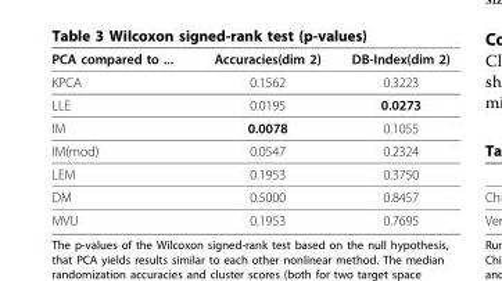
<table><thead><tr><td>PCA compared to ...</td><td>Accuracies(dim 2)</td><td>DB-Index(dim 2)</td></tr></thead><tbody><tr><td>KPCA</td><td>0.1562</td><td>0.3223</td></tr><tr><td>LLE</td><td>0.0195</td><td>0.0273</td></tr><tr><td>IM</td><td>0.0078</td><td>0.1055</td></tr><tr><td>IM(mod)</td><td>0.0547</td><td>0.2324</td></tr><tr><td>LEM</td><td>0.1953</td><td>0.3750</td></tr><tr><td>DM</td><td>0.5000</td><td>0.8457</td></tr><tr><td>MVU</td><td>0.1953</td><td>0.7695</td></tr></tbody></table>